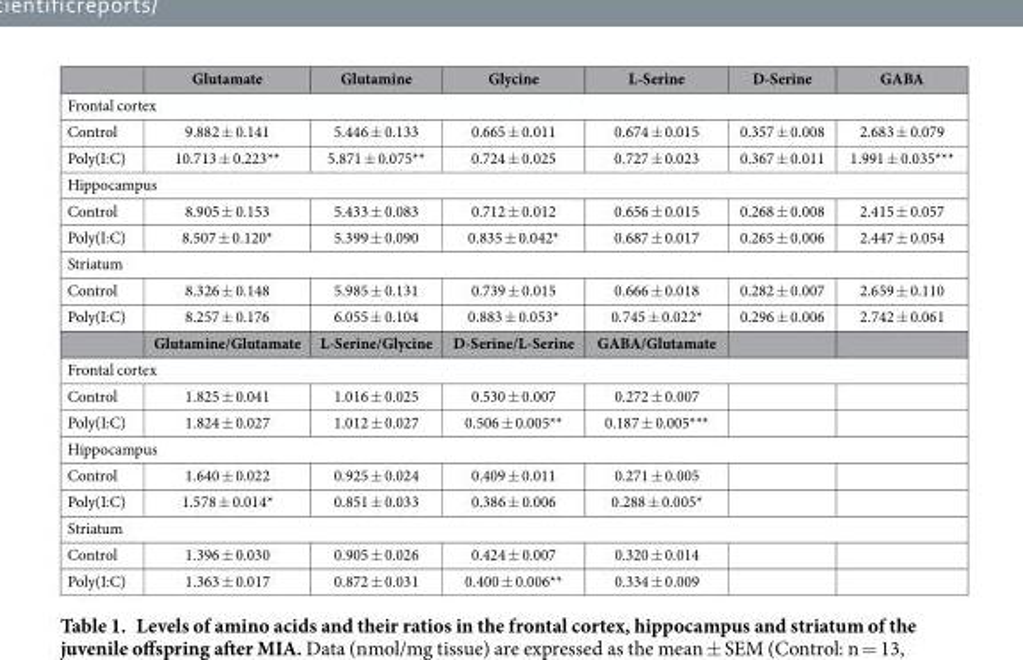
<table><thead><tr><td></td><td>Glutamate</td><td>Glutamine</td><td>Glycine</td><td>L-Serine</td><td>D-Serine</td><td>GABA</td></tr></thead><tbody><tr><td colspan="7">Frontal cortex</td></tr><tr><td>Control</td><td>9.882 ± 0.141</td><td>5.446 ± 0.133</td><td>0.665 ± 0.011</td><td>0.674 ± 0.015</td><td>0.357 ± 0.008</td><td>2.683 ± 0.079</td></tr><tr><td>Poly(I:C)</td><td>10.713 ± 0.223**</td><td>5.871 ± 0.075**</td><td>0.724 ± 0.025</td><td>0.727 ± 0.023</td><td>0.367 ± 0.011</td><td>1.991 ± 0.035***</td></tr><tr><td colspan="7">Hippocampus</td></tr><tr><td>Control</td><td>8.905 ± 0.153</td><td>5.433 ± 0.083</td><td>0.712 ± 0.012</td><td>0.656 ± 0.015</td><td>0.268 ± 0.008</td><td>2.415 ± 0.057</td></tr><tr><td>Poly(I:C)</td><td>8.507 ± 0.120*</td><td>5.399 ± 0.090</td><td>0.835 ± 0.042*</td><td>0.687 ± 0.017</td><td>0.265 ± 0.006</td><td>2.447 ± 0.054</td></tr><tr><td colspan="7">Striatum</td></tr><tr><td>Control</td><td>8.326 ± 0.148</td><td>5.985 ± 0.131</td><td>0.739 ± 0.015</td><td>0.666 ± 0.018</td><td>0.282 ± 0.007</td><td>2.659 ± 0.110</td></tr><tr><td rowspan="2">Poly(I:C)</td><td>8.257 ± 0.176</td><td>6.055 ± 0.104</td><td>0.883 ± 0.053*</td><td>0.745 ± 0.022*</td><td>0.296 ± 0.006</td><td>2.742 ± 0.061</td></tr><tr><td>Glutamine/Glutamate</td><td>L-Serine/Glycine</td><td>D-Serine/L-Serine</td><td>GABA/Glutamate</td><td></td><td></td></tr><tr><td colspan="7">Frontal cortex</td></tr><tr><td>Control</td><td>1.825 ± 0.041</td><td>1.016 ± 0.025</td><td>0.530 ± 0.007</td><td>0.272 ± 0.007</td><td></td><td></td></tr><tr><td>Poly(I:C)</td><td>1.824 ± 0.027</td><td>1.012 ± 0.027</td><td>0.506 ± 0.005**</td><td>0.187 ± 0.005***</td><td></td><td></td></tr><tr><td colspan="7">Hippocampus</td></tr><tr><td>Control</td><td>1.640 ± 0.022</td><td>0.925 ± 0.024</td><td>0.409 ± 0.011</td><td>0.271 ± 0.005</td><td></td><td></td></tr><tr><td>Poly(I:C)</td><td>1.578 ± 0.014*</td><td>0.851 ± 0.033</td><td>0.386 ± 0.006</td><td>0.288 ± 0.005*</td><td></td><td></td></tr><tr><td colspan="7">Striatum</td></tr><tr><td>Control</td><td>1.396 ± 0.030</td><td>0.905 ± 0.026</td><td>0.424 ± 0.007</td><td>0.320 ± 0.014</td><td></td><td></td></tr><tr><td>Poly(I:C)</td><td>1.363 ± 0.017</td><td>0.872 ± 0.031</td><td>0.400 ± 0.006**</td><td>0.334 ± 0.009</td><td></td><td></td></tr></tbody></table>